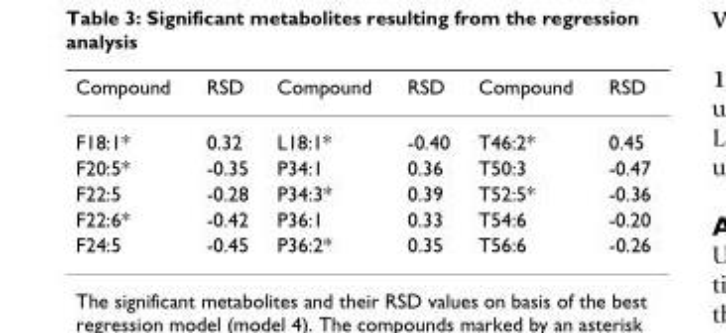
<table><thead><tr><td>Compound</td><td>RSD</td><td>Compound</td><td>RSD</td><td>Compound</td><td>RSD</td></tr></thead><tbody><tr><td>F18:1*</td><td>0.32</td><td>L18:1*</td><td>-0.40</td><td>T46:2*</td><td>0.45</td></tr><tr><td>F20:5*</td><td>-0.35</td><td>P34:1</td><td>0.36</td><td>T50:3</td><td>-0.47</td></tr><tr><td>F22:5</td><td>-0.28</td><td>P34:3*</td><td>0.39</td><td>T52:5*</td><td>-0.36</td></tr><tr><td>F22:6*</td><td>-0.42</td><td>P36:1</td><td>0.33</td><td>T54:6</td><td>-0.20</td></tr><tr><td>F24:5</td><td>-0.45</td><td>P36:2*</td><td>0.35</td><td>T56:6</td><td>-0.26</td></tr></tbody></table>